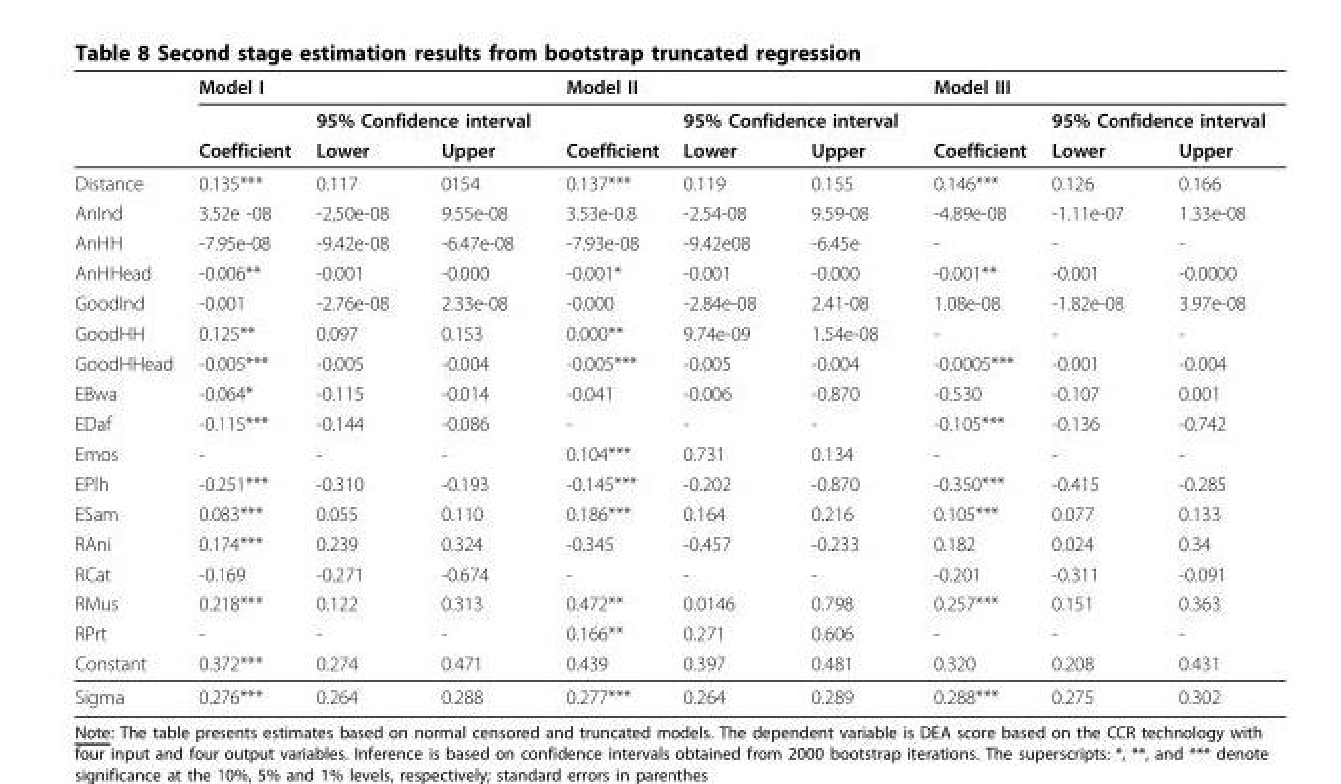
<table><thead><tr><td rowspan="3"></td><td colspan="3">Model I</td><td colspan="3">Model II</td><td colspan="3">Model III</td></tr><tr><td rowspan="2">Coefficient</td><td colspan="2">95% Confidence interval</td><td rowspan="2">Coefficient</td><td colspan="2">95% Confidence interval</td><td rowspan="2">Coefficient</td><td colspan="2">95% Confidence interval</td></tr><tr><td>Lower</td><td>Upper</td><td>Lower</td><td>Upper</td><td>Lower</td><td>Upper</td></tr></thead><tbody><tr><td>Distance</td><td>0.135***</td><td>0.117</td><td>0154</td><td>0.137***</td><td>0.119</td><td>0.155</td><td>0.146***</td><td>0.126</td><td>0.166</td></tr><tr><td>AnInd</td><td>3.52e -08</td><td>-2,50e-08</td><td>9.55e-08</td><td>3.53e-0.8</td><td>-2.54-08</td><td>9.59-08</td><td>-4.89e-08</td><td>-1.11e-07</td><td>1.33e-08</td></tr><tr><td>AnHH</td><td>-7.95e-08</td><td>-9.42e-08</td><td>-6.47e-08</td><td>-7.93e-08</td><td>-9.42e08</td><td>-6.45e</td><td>-</td><td>-</td><td>-</td></tr><tr><td>AnHHead</td><td>-0.006**</td><td>-0.001</td><td>-0.000</td><td>-0.001*</td><td>-0.001</td><td>-0.000</td><td>-0.001**</td><td>-0.001</td><td>-0.0000</td></tr><tr><td>GoodInd</td><td>-0.001</td><td>-2.76e-08</td><td>2.33e-08</td><td>-0.000</td><td>-2.84e-08</td><td>2.41-08</td><td>1.08e-08</td><td>-1.82e-08</td><td>3.97e-08</td></tr><tr><td>GoodHH</td><td>0.125**</td><td>0.097</td><td>0.153</td><td>0.000**</td><td>9.74e-09</td><td>1.54e-08</td><td>-</td><td>-</td><td>-</td></tr><tr><td>GoodHHead</td><td>-0.005***</td><td>-0.005</td><td>-0.004</td><td>-0.005***</td><td>-0.005</td><td>-0.004</td><td>-0.0005***</td><td>-0.001</td><td>-0.004</td></tr><tr><td>EBwa</td><td>-0.064*</td><td>-0.115</td><td>-0.014</td><td>-0.041</td><td>-0.006</td><td>-0.870</td><td>-0.530</td><td>-0.107</td><td>0.001</td></tr><tr><td>EDaf</td><td>-0.115***</td><td>-0.144</td><td>-0.086</td><td>-</td><td>-</td><td>-</td><td>-0.105***</td><td>-0.136</td><td>-0.742</td></tr><tr><td>Emos</td><td>-</td><td>-</td><td>-</td><td>0.104***</td><td>0.731</td><td>0.134</td><td>-</td><td>-</td><td>-</td></tr><tr><td>EPlh</td><td>-0.251***</td><td>-0.310</td><td>-0.193</td><td>-0.145***</td><td>-0.202</td><td>-0.870</td><td>-0.350***</td><td>-0.415</td><td>-0.285</td></tr><tr><td>ESam</td><td>0.083***</td><td>0.055</td><td>0.110</td><td>0.186***</td><td>0.164</td><td>0.216</td><td>0.105***</td><td>0.077</td><td>0.133</td></tr><tr><td>RAni</td><td>0.174***</td><td>0.239</td><td>0.324</td><td>-0.345</td><td>-0.457</td><td>-0.233</td><td>0.182</td><td>0.024</td><td>0.34</td></tr><tr><td>RCat</td><td>-0.169</td><td>-0.271</td><td>-0.674</td><td>-</td><td>-</td><td>-</td><td>-0.201</td><td>-0.311</td><td>-0.091</td></tr><tr><td>RMus</td><td>0.218***</td><td>0.122</td><td>0.313</td><td>0.472**</td><td>0.0146</td><td>0.798</td><td>0.257***</td><td>0.151</td><td>0.363</td></tr><tr><td>RPrt</td><td>-</td><td>-</td><td>-</td><td>0.166**</td><td>0.271</td><td>0.606</td><td>-</td><td>-</td><td>-</td></tr><tr><td>Constant</td><td>0.372***</td><td>0.274</td><td>0.471</td><td>0.439</td><td>0.397</td><td>0.481</td><td>0.320</td><td>0.208</td><td>0.431</td></tr><tr><td>Sigma</td><td>0.276***</td><td>0.264</td><td>0.288</td><td>0.277***</td><td>0.264</td><td>0.289</td><td>0.288***</td><td>0.275</td><td>0.302</td></tr></tbody></table>